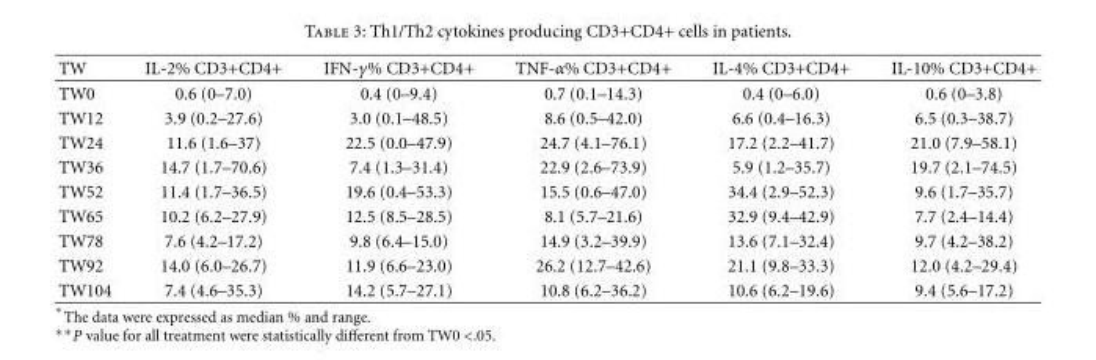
<table><thead><tr><td>TW</td><td>IL-2% CD3+CD4+</td><td>IFN-γ% CD3+CD4+</td><td>TNF-α% CD3+CD4+</td><td>IL-4% CD3+CD4+</td><td>IL-10% CD3+CD4+</td></tr></thead><tbody><tr><td>TW0</td><td>0.6 (0–7.0)</td><td>0.4 (0–9.4)</td><td>0.7 (0.1–14.3)</td><td>0.4 (0–6.0)</td><td>0.6 (0–3.8)</td></tr><tr><td>TW12</td><td>3.9 (0.2–27.6)</td><td>3.0 (0.1–48.5)</td><td>8.6 (0.5–42.0)</td><td>6.6 (0.4–16.3)</td><td>6.5 (0.3–38.7)</td></tr><tr><td>TW24</td><td>11.6 (1.6–37)</td><td>22.5 (0.0–47.9)</td><td>24.7 (4.1–76.1)</td><td>17.2 (2.2–41.7)</td><td>21.0 (7.9–58.1)</td></tr><tr><td>TW36</td><td>14.7 (1.7–70.6)</td><td>7.4 (1.3–31.4)</td><td>22.9 (2.6–73.9)</td><td>5.9 (1.2–35.7)</td><td>19.7 (2.1–74.5)</td></tr><tr><td>TW52</td><td>11.4 (1.7–36.5)</td><td>19.6 (0.4–53.3)</td><td>15.5 (0.6–47.0)</td><td>34.4 (2.9–52.3)</td><td>9.6 (1.7–35.7)</td></tr><tr><td>TW65</td><td>10.2 (6.2–27.9)</td><td>12.5 (8.5–28.5)</td><td>8.1 (5.7–21.6)</td><td>32.9 (9.4–42.9)</td><td>7.7 (2.4–14.4)</td></tr><tr><td>TW78</td><td>7.6 (4.2–17.2)</td><td>9.8 (6.4–15.0)</td><td>14.9 (3.2–39.9)</td><td>13.6 (7.1–32.4)</td><td>9.7 (4.2–38.2)</td></tr><tr><td>TW92</td><td>14.0 (6.0–26.7)</td><td>11.9 (6.6–23.0)</td><td>26.2 (12.7–42.6)</td><td>21.1 (9.8–33.3)</td><td>12.0 (4.2–29.4)</td></tr><tr><td>TW104</td><td>7.4 (4.6–35.3)</td><td>14.2 (5.7–27.1)</td><td>10.8 (6.2–36.2)</td><td>10.6 (6.2–19.6)</td><td>9.4 (5.6–17.2)</td></tr></tbody></table>